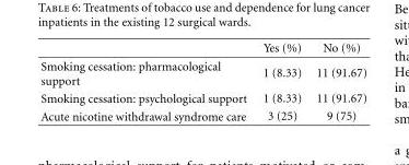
<table><thead><tr><td></td><td>Yes (%)</td><td>No (%)</td></tr></thead><tbody><tr><td>Smoking cessation: pharmacological support</td><td>1 (8.33)</td><td>11 (91.67)</td></tr><tr><td>Smoking cessation: psychological support</td><td>1 (8.33)</td><td>11 (91.67)</td></tr><tr><td>Acute nicotine withdrawal syndrome care</td><td>3 (25)</td><td>9 (75)</td></tr></tbody></table>